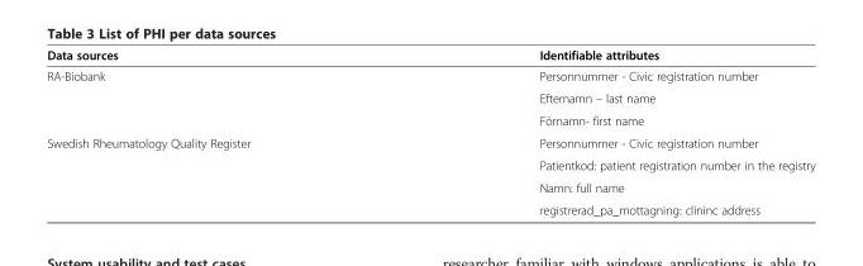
<table><thead><tr><td>Data sources</td><td>Identifiable attributes</td></tr></thead><tbody><tr><td rowspan="3">RA-Biobank</td><td>Personnummer - Civic registration number</td></tr><tr><td>Efternamn – last name</td></tr><tr><td>Förnamn- first name</td></tr><tr><td rowspan="4">Swedish Rheumatology Quality Register</td><td>Personnummer - Civic registration number</td></tr><tr><td>Patientkod: patient registration number in the registry</td></tr><tr><td>Namn: full name</td></tr><tr><td>registrerad_pa_mottagning: clininc address</td></tr></tbody></table>